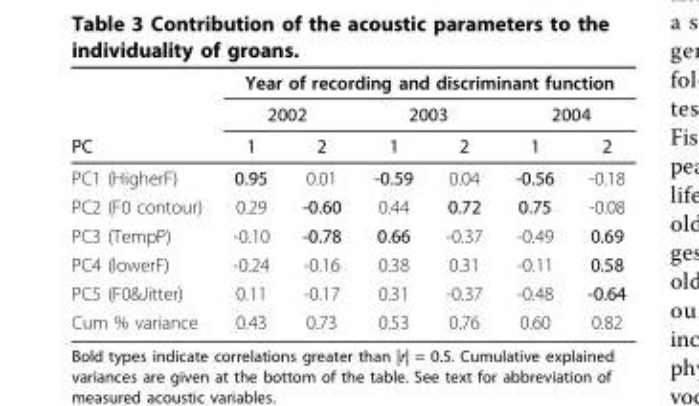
<table><thead><tr><td rowspan="3">PC</td><td colspan="6">Year of recording and discriminant function</td></tr><tr><td colspan="2">2002</td><td colspan="2">2003</td><td colspan="2">2004</td></tr><tr><td>1</td><td>2</td><td>1</td><td>2</td><td>1</td><td>2</td></tr></thead><tbody><tr><td>PC1 (HigherF)</td><td>0.95</td><td>0.01</td><td>-0.59</td><td>0.04</td><td>-0.56</td><td>-0.18</td></tr><tr><td>PC2 (F0 contour)</td><td>0.29</td><td>-0.60</td><td>0.44</td><td>0.72</td><td>0.75</td><td>-0.08</td></tr><tr><td>PC3 (TempP)</td><td>-0.10</td><td>-0.78</td><td>0.66</td><td>-0.37</td><td>-0.49</td><td>0.69</td></tr><tr><td>PC4 (lowerF)</td><td>-0.24</td><td>-0.16</td><td>0.38</td><td>0.31</td><td>-0.11</td><td>0.58</td></tr><tr><td>PC5 (F0&amp;Jitter)</td><td>0.11</td><td>-0.17</td><td>0.31</td><td>-0.37</td><td>-0.48</td><td>-0.64</td></tr><tr><td>Cum % variance</td><td>0.43</td><td>0.73</td><td>0.53</td><td>0.76</td><td>0.60</td><td>0.82</td></tr></tbody></table>